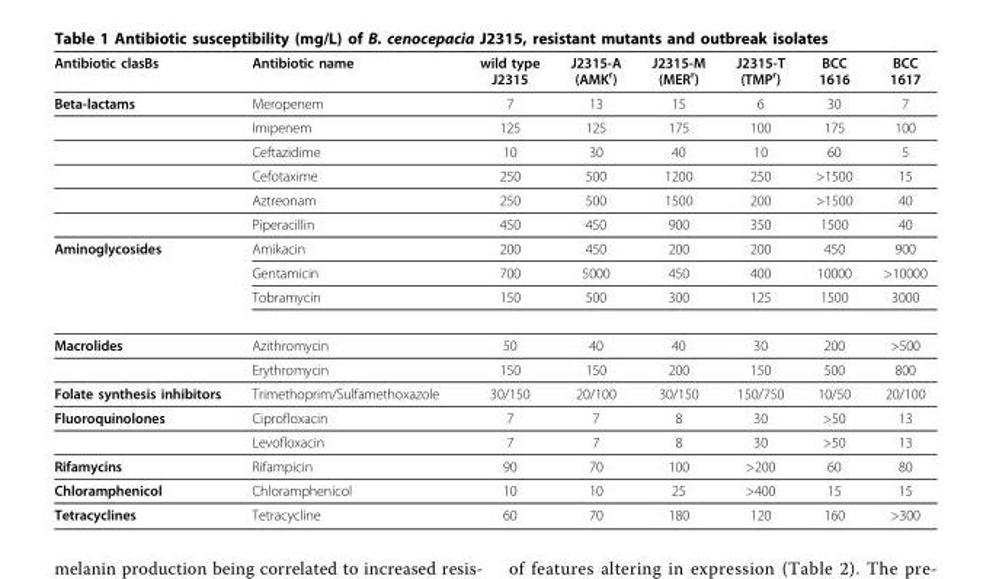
<table><thead><tr><td>Antibiotic clasBs</td><td>Antibiotic name</td><td>wild type J2315</td><td>J2315-A (AMK<sup>r</sup>)</td><td>J2315-M (MER<sup>r</sup>)</td><td>J2315-T (TMP<sup>r</sup>)</td><td>BCC 1616</td><td>BCC 1617</td></tr></thead><tbody><tr><td rowspan="6">Beta-lactams</td><td>Meropenem</td><td>7</td><td>13</td><td>15</td><td>6</td><td>30</td><td>7</td></tr><tr><td>Imipenem</td><td>125</td><td>125</td><td>175</td><td>100</td><td>175</td><td>100</td></tr><tr><td>Ceftazidime</td><td>10</td><td>30</td><td>40</td><td>10</td><td>60</td><td>5</td></tr><tr><td>Cefotaxime</td><td>250</td><td>500</td><td>1200</td><td>250</td><td>&gt;1500</td><td>15</td></tr><tr><td>Aztreonam</td><td>250</td><td>500</td><td>1500</td><td>200</td><td>&gt;1500</td><td>40</td></tr><tr><td>Piperacillin</td><td>450</td><td>450</td><td>900</td><td>350</td><td>1500</td><td>40</td></tr><tr><td rowspan="3">Aminoglycosides</td><td>Amikacin</td><td>200</td><td>450</td><td>200</td><td>200</td><td>450</td><td>900</td></tr><tr><td>Gentamicin</td><td>700</td><td>5000</td><td>450</td><td>400</td><td>10000</td><td>&gt;10000</td></tr><tr><td>Tobramycin</td><td>150</td><td>500</td><td>300</td><td>125</td><td>1500</td><td>3000</td></tr><tr><td rowspan="2">Macrolides</td><td>Azithromycin</td><td>50</td><td>40</td><td>40</td><td>30</td><td>200</td><td>&gt;500</td></tr><tr><td>Erythromycin</td><td>150</td><td>150</td><td>200</td><td>150</td><td>500</td><td>800</td></tr><tr><td>Folate synthesis inhibitors</td><td>Trimethoprim/Sulfamethoxazole</td><td>30/150</td><td>20/100</td><td>30/150</td><td>150/750</td><td>10/50</td><td>20/100</td></tr><tr><td rowspan="2">Fluoroquinolones</td><td>Ciprofloxacin</td><td>7</td><td>7</td><td>8</td><td>30</td><td>&gt;50</td><td>13</td></tr><tr><td>Levofloxacin</td><td>7</td><td>7</td><td>8</td><td>30</td><td>&gt;50</td><td>13</td></tr><tr><td>Rifamycins</td><td>Rifampicin</td><td>90</td><td>70</td><td>100</td><td>&gt;200</td><td>60</td><td>80</td></tr><tr><td>Chloramphenicol</td><td>Chloramphenicol</td><td>10</td><td>10</td><td>25</td><td>&gt;400</td><td>15</td><td>15</td></tr><tr><td>Tetracyclines</td><td>Tetracycline</td><td>60</td><td>70</td><td>180</td><td>120</td><td>160</td><td>&gt;300</td></tr></tbody></table>